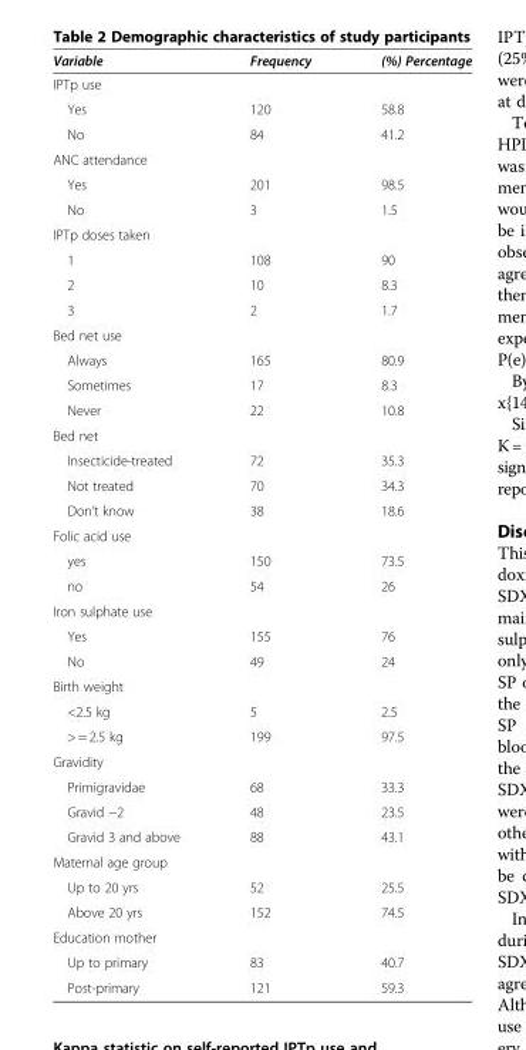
<table><thead><tr><td>Variable</td><td>Frequency</td><td>(%) Percentage</td></tr></thead><tbody><tr><td colspan="3">IPTp use</td></tr><tr><td>Yes</td><td>120</td><td>58.8</td></tr><tr><td>No</td><td>84</td><td>41.2</td></tr><tr><td colspan="3">ANC attendance</td></tr><tr><td>Yes</td><td>201</td><td>98.5</td></tr><tr><td>No</td><td>3</td><td>1.5</td></tr><tr><td colspan="3">IPTp doses taken</td></tr><tr><td>1</td><td>108</td><td>90</td></tr><tr><td>2</td><td>10</td><td>8.3</td></tr><tr><td>3</td><td>2</td><td>1.7</td></tr><tr><td colspan="3">Bed net use</td></tr><tr><td>Always</td><td>165</td><td>80.9</td></tr><tr><td>Sometimes</td><td>17</td><td>8.3</td></tr><tr><td>Never</td><td>22</td><td>10.8</td></tr><tr><td colspan="3">Bed net</td></tr><tr><td>Insecticide-treated</td><td>72</td><td>35.3</td></tr><tr><td>Not treated</td><td>70</td><td>34.3</td></tr><tr><td>Don’t know</td><td>38</td><td>18.6</td></tr><tr><td colspan="3">Folic acid use</td></tr><tr><td>yes</td><td>150</td><td>73.5</td></tr><tr><td>no</td><td>54</td><td>26</td></tr><tr><td colspan="3">Iron sulphate use</td></tr><tr><td>Yes</td><td>155</td><td>76</td></tr><tr><td>No</td><td>49</td><td>24</td></tr><tr><td colspan="3">Birth weight</td></tr><tr><td>&lt;2.5 kg</td><td>5</td><td>2.5</td></tr><tr><td>&gt; = 2.5 kg</td><td>199</td><td>97.5</td></tr><tr><td colspan="3">Gravidity</td></tr><tr><td>Primigravidae</td><td>68</td><td>33.3</td></tr><tr><td>Gravid −2</td><td>48</td><td>23.5</td></tr><tr><td>Gravid 3 and above</td><td>88</td><td>43.1</td></tr><tr><td colspan="3">Maternal age group</td></tr><tr><td>Up to 20 yrs</td><td>52</td><td>25.5</td></tr><tr><td>Above 20 yrs</td><td>152</td><td>74.5</td></tr><tr><td colspan="3">Education mother</td></tr><tr><td>Up to primary</td><td>83</td><td>40.7</td></tr><tr><td>Post-primary</td><td>121</td><td>59.3</td></tr></tbody></table>